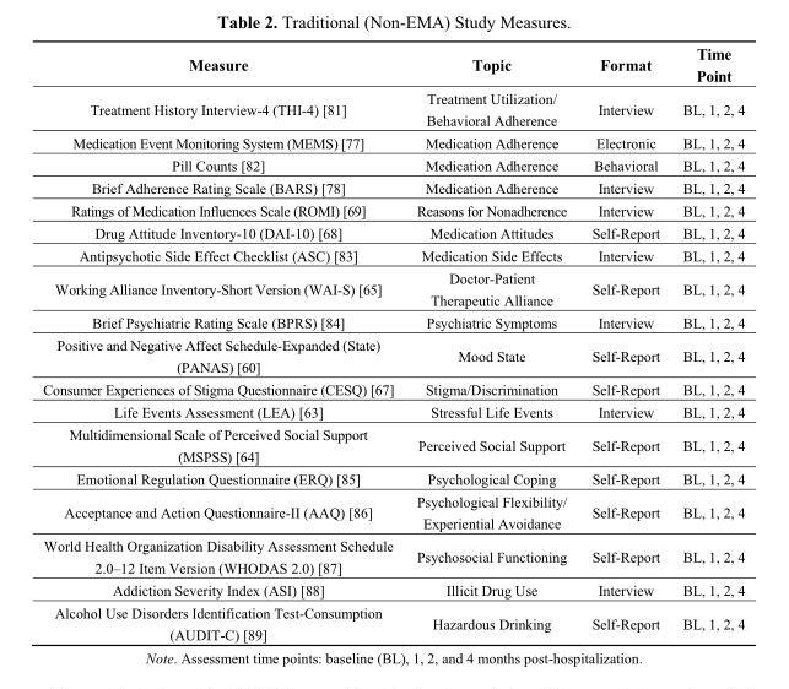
<table><thead><tr><td>Measure</td><td>Topic</td><td>Format</td><td>Time Point</td></tr></thead><tbody><tr><td>Treatment History Interview-4 (THI-4) [81]</td><td>Treatment Utilization/ Behavioral Adherence</td><td>Interview</td><td>BL, 1, 2, 4</td></tr><tr><td>Medication Event Monitoring System (MEMS) [77]</td><td>Medication Adherence</td><td>Electronic</td><td>BL, 1, 2, 4</td></tr><tr><td>Pill Counts [82]</td><td>Medication Adherence</td><td>Behavioral</td><td>BL, 1, 2, 4</td></tr><tr><td>Brief Adherence Rating Scale (BARS) [78]</td><td>Medication Adherence</td><td>Interview</td><td>BL, 1, 2, 4</td></tr><tr><td>Ratings of Medication Influences Scale (ROMI) [69]</td><td>Reasons for Nonadherence</td><td>Interview</td><td>BL, 1, 2, 4</td></tr><tr><td>Drug Attitude Inventory-10 (DAI-10) [68]</td><td>Medication Attitudes</td><td>Self-Report</td><td>BL, 1, 2, 4</td></tr><tr><td>Antipsychotic Side Effect Checklist (ASC) [83]</td><td>Medication Side Effects</td><td>Interview</td><td>BL, 1, 2, 4</td></tr><tr><td>Working Alliance Inventory-Short Version (WAI-S) [65]</td><td>Doctor-Patient Therapeutic Alliance</td><td>Self-Report</td><td>BL, 1, 2, 4</td></tr><tr><td>Brief Psychiatric Rating Scale (BPRS) [84]</td><td>Psychiatric Symptoms</td><td>Interview</td><td>BL, 1, 2, 4</td></tr><tr><td>Positive and Negative Affect Schedule-Expanded (State) (PANAS) [60]</td><td>Mood State</td><td>Self-Report</td><td>BL, 1, 2, 4</td></tr><tr><td>Consumer Experiences of Stigma Questionnaire (CESQ) [67]</td><td>Stigma/Discrimination</td><td>Self-Report</td><td>BL, 1, 2, 4</td></tr><tr><td>Life Events Assessment (LEA) [63]</td><td>Stressful Life Events</td><td>Interview</td><td>BL, 1, 2, 4</td></tr><tr><td>Multidimensional Scale of Perceived Social Support (MSPSS) [64]</td><td>Perceived Social Support</td><td>Self-Report</td><td>BL, 1, 2, 4</td></tr><tr><td>Emotional Regulation Questionnaire (ERQ) [85]</td><td>Psychological Coping</td><td>Self-Report</td><td>BL, 1, 2, 4</td></tr><tr><td>Acceptance and Action Questionnaire-II (AAQ) [86]</td><td>Psychological Flexibility/ Experiential Avoidance</td><td>Self-Report</td><td>BL, 1, 2, 4</td></tr><tr><td>World Health Organization Disability Assessment Schedule 2.0–12 Item Version (WHODAS 2.0) [87]</td><td>Psychosocial Functioning</td><td>Self-Report</td><td>BL, 1, 2, 4</td></tr><tr><td>Addiction Severity Index (ASI) [88]</td><td>Illicit Drug Use</td><td>Interview</td><td>BL, 1, 2, 4</td></tr><tr><td>Alcohol Use Disorders Identification Test-Consumption (AUDIT-C) [89]</td><td>Hazardous Drinking</td><td>Self-Report</td><td>BL, 1, 2, 4</td></tr></tbody></table>